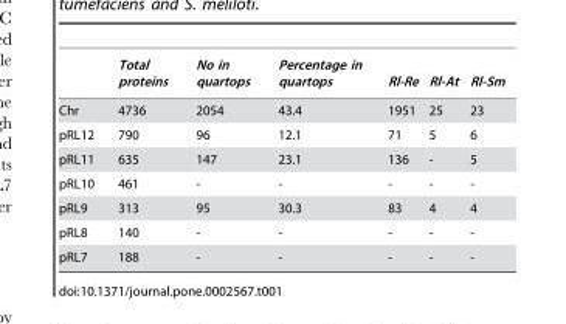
<table><thead><tr><td></td><td>Total proteins</td><td>No in quartops</td><td>Percentage in quartops</td><td>Rl-Re</td><td>Rl-At</td><td>Rl-Sm</td></tr></thead><tbody><tr><td>Chr</td><td>4736</td><td>2054</td><td>43.4</td><td>1951</td><td>25</td><td>23</td></tr><tr><td>pRL12</td><td>790</td><td>96</td><td>12.1</td><td>71</td><td>5</td><td>6</td></tr><tr><td>pRL11</td><td>635</td><td>147</td><td>23.1</td><td>136</td><td>-</td><td>5</td></tr><tr><td>pRL10</td><td>461</td><td>-</td><td>-</td><td>-</td><td>-</td><td>-</td></tr><tr><td>pRL9</td><td>313</td><td>95</td><td>30.3</td><td>83</td><td>4</td><td>4</td></tr><tr><td>pRL8</td><td>140</td><td>-</td><td>-</td><td>-</td><td>-</td><td>-</td></tr><tr><td>pRL7</td><td>188</td><td>-</td><td>-</td><td>-</td><td>-</td><td>-</td></tr></tbody></table>